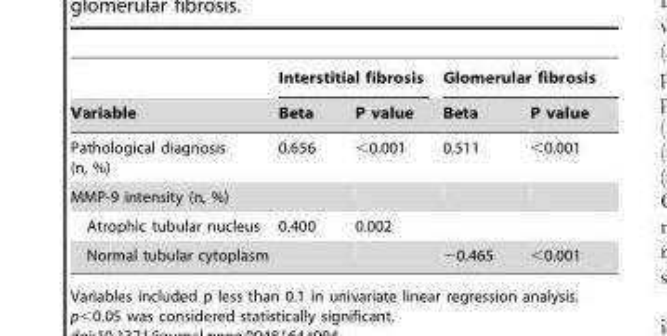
<table><thead><tr><td rowspan="2">Variable</td><td colspan="2">Interstitial fibrosis</td><td colspan="2">Glomerular fibrosis</td></tr><tr><td>Beta</td><td>P value</td><td>Beta</td><td>P value</td></tr></thead><tbody><tr><td>Pathological diagnosis (n, %)</td><td>0.656</td><td>&lt;0.001</td><td>0.511</td><td>&lt;0.001</td></tr><tr><td colspan="5">MMP-9 intensity (n, %)</td></tr><tr><td>Atrophic tubular nucleus</td><td>0.400</td><td>0.002</td><td></td><td></td></tr><tr><td>Normal tubular cytoplasm</td><td></td><td></td><td>−0.465</td><td>&lt;0.001</td></tr></tbody></table>